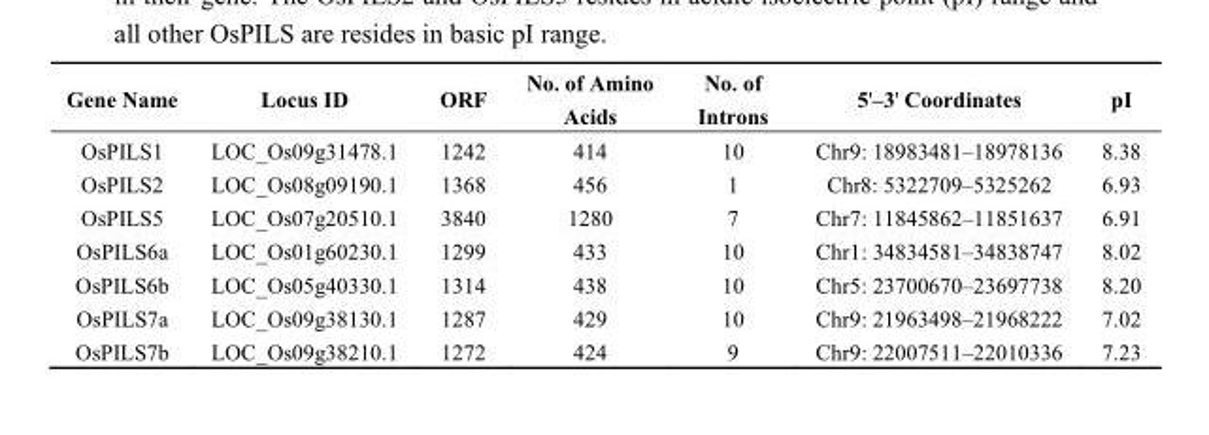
<table><thead><tr><td>Gene Name</td><td>Locus ID</td><td>ORF</td><td>No. of Amino Acids</td><td>No. of Introns</td><td>5&#x27;–3&#x27; Coordinates</td><td>pI</td></tr></thead><tbody><tr><td>OsPILS1</td><td>LOC_Os09g31478.1</td><td>1242</td><td>414</td><td>10</td><td>Chr9: 18983481–18978136</td><td>8.38</td></tr><tr><td>OsPILS2</td><td>LOC_Os08g09190.1</td><td>1368</td><td>456</td><td>1</td><td>Chr8: 5322709–5325262</td><td>6.93</td></tr><tr><td>OsPILS5</td><td>LOC_Os07g20510.1</td><td>3840</td><td>1280</td><td>7</td><td>Chr7: 11845862–11851637</td><td>6.91</td></tr><tr><td>OsPILS6a</td><td>LOC_Os01g60230.1</td><td>1299</td><td>433</td><td>10</td><td>Chr1: 34834581–34838747</td><td>8.02</td></tr><tr><td>OsPILS6b</td><td>LOC_Os05g40330.1</td><td>1314</td><td>438</td><td>10</td><td>Chr5: 23700670–23697738</td><td>8.20</td></tr><tr><td>OsPILS7a</td><td>LOC_Os09g38130.1</td><td>1287</td><td>429</td><td>10</td><td>Chr9: 21963498–21968222</td><td>7.02</td></tr><tr><td>OsPILS7b</td><td>LOC_Os09g38210.1</td><td>1272</td><td>424</td><td>9</td><td>Chr9: 22007511–22010336</td><td>7.23</td></tr></tbody></table>